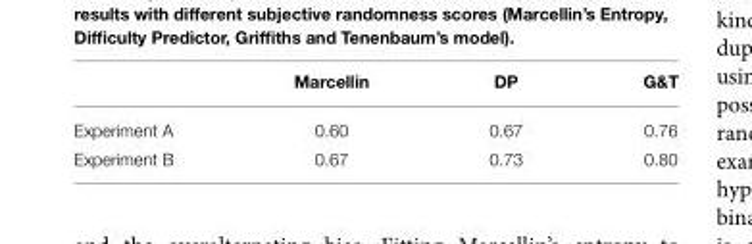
<table><thead><tr><td></td><td>Marcellin</td><td>DP</td><td>G&amp;T</td></tr></thead><tbody><tr><td>Experiment A</td><td>0.60</td><td>0.67</td><td>0.76</td></tr><tr><td>Experiment B</td><td>0.67</td><td>0.73</td><td>0.80</td></tr></tbody></table>